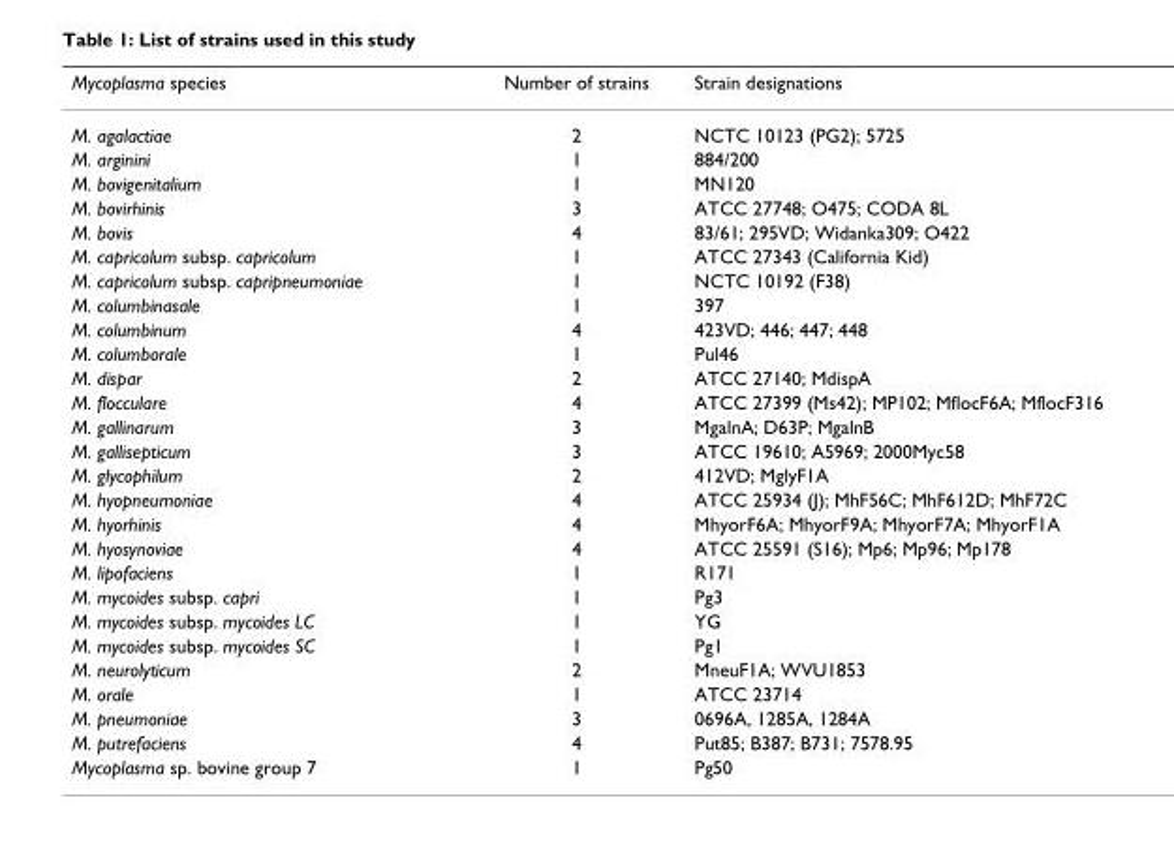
<table><thead><tr><td>Mycoplasma species</td><td>Number of strains</td><td>Strain designations</td></tr></thead><tbody><tr><td>M. agalactiae</td><td>2</td><td>NCTC 10123 (PG2); 5725</td></tr><tr><td>M. arginini</td><td>1</td><td>884/200</td></tr><tr><td>M. bovigenitalium</td><td>1</td><td>MN120</td></tr><tr><td>M. bovirhinis</td><td>3</td><td>ATCC 27748; O475; CODA 8L</td></tr><tr><td>M. bovis</td><td>4</td><td>83/61; 295VD; Widanka309; O422</td></tr><tr><td>M. capricolum subsp. capricolum</td><td>1</td><td>ATCC 27343 (California Kid)</td></tr><tr><td>M. capricolum subsp. capripneumoniae</td><td>1</td><td>NCTC 10192 (F38)</td></tr><tr><td>M. columbinasale</td><td>1</td><td>397</td></tr><tr><td>M. columbinum</td><td>4</td><td>423VD; 446; 447; 448</td></tr><tr><td>M. columborale</td><td>1</td><td>Pul46</td></tr><tr><td>M. dispar</td><td>2</td><td>ATCC 27140; MdispA</td></tr><tr><td>M. flocculare</td><td>4</td><td>ATCC 27399 (Ms42); MP102; MflocF6A; MflocF316</td></tr><tr><td>M. gallinarum</td><td>3</td><td>MgalnA; D63P; MgalnB</td></tr><tr><td>M. gallisepticum</td><td>3</td><td>ATCC 19610; A5969; 2000Myc58</td></tr><tr><td>M. glycophilum</td><td>2</td><td>412VD; MglyF1A</td></tr><tr><td>M. hyopneumoniae</td><td>4</td><td>ATCC 25934 (J); MhF56C; MhF612D; MhF72C</td></tr><tr><td>M. hyorhinis</td><td>4</td><td>MhyorF6A; MhyorF9A; MhyorF7A; MhyorF1A</td></tr><tr><td>M. hyosynoviae</td><td>4</td><td>ATCC 25591 (S16); Mp6; Mp96; Mp178</td></tr><tr><td>M. lipofaciens</td><td>1</td><td>R171</td></tr><tr><td>M. mycoides subsp. capri</td><td>1</td><td>Pg3</td></tr><tr><td>M. mycoides subsp. mycoides LC</td><td>1</td><td>YG</td></tr><tr><td>M. mycoides subsp. mycoides SC</td><td>1</td><td>Pg1</td></tr><tr><td>M. neurolyticum</td><td>2</td><td>MneuF1A; WVU1853</td></tr><tr><td>M. orale</td><td>1</td><td>ATCC 23714</td></tr><tr><td>M. pneumoniae</td><td>3</td><td>0696A, 1285A, 1284A</td></tr><tr><td>M. putrefaciens</td><td>4</td><td>Put85; B387; B731; 7578.95</td></tr><tr><td>Mycoplasma sp. bovine group 7</td><td>1</td><td>Pg50</td></tr></tbody></table>